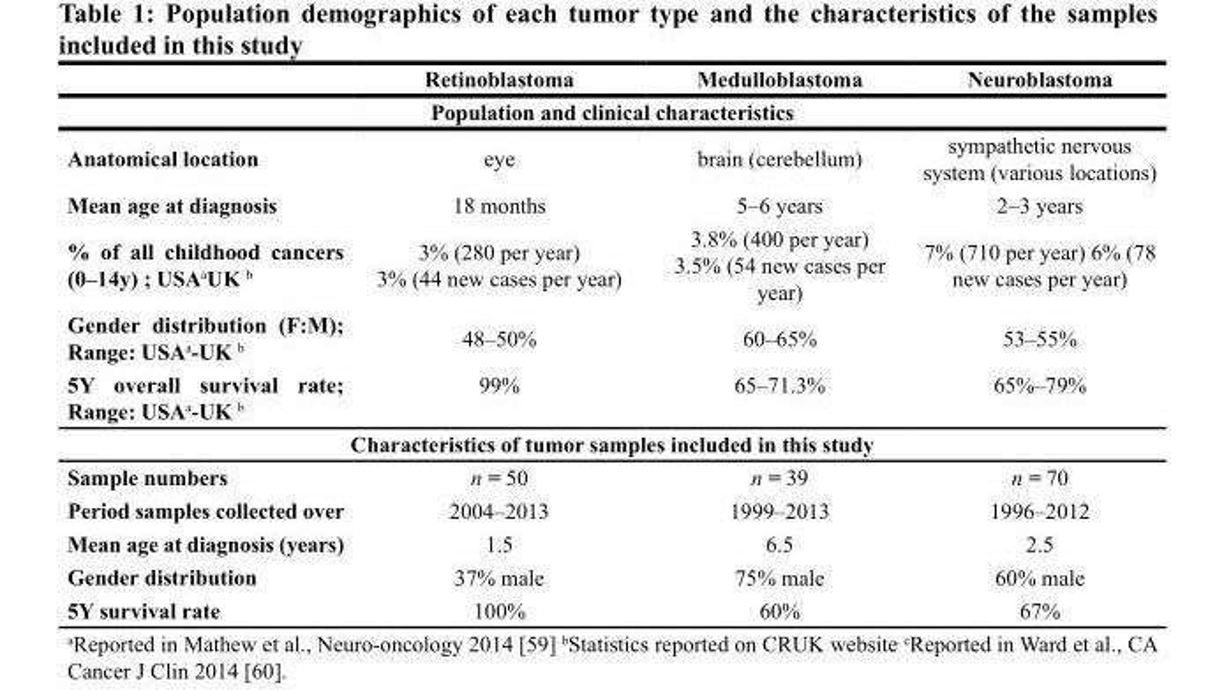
<table><thead><tr><td></td><td>Retinoblastoma</td><td>Medulloblastoma</td><td>Neuroblastoma</td></tr><tr><td colspan="4">Population and clinical characteristics</td></tr></thead><tbody><tr><td>Anatomical location</td><td>eye</td><td>brain (cerebellum)</td><td>sympathetic nervous system (various locations)</td></tr><tr><td>Mean age at diagnosis</td><td>18 months</td><td>5–6 years</td><td>2–3 years</td></tr><tr><td>% of all childhood cancers (0–14y) ; USA<sup>a</sup>UK <sup>b</sup></td><td>3% (280 per year) 3% (44 new cases per year)</td><td>3.8% (400 per year) 3.5% (54 new cases per year)</td><td>7% (710 per year) 6% (78 new cases per year)</td></tr><tr><td>Gender distribution (F:M); Range: USA<sup>a</sup>-UK <sup>b</sup></td><td>48–50%</td><td>60–65%</td><td>53–55%</td></tr><tr><td>5Y overall survival rate; Range: USA<sup>a</sup>-UK <sup>b</sup></td><td>99%</td><td>65–71.3%</td><td>65%–79%</td></tr><tr><td colspan="4">Characteristics of tumor samples included in this study</td></tr><tr><td>Sample numbers</td><td>n = 50</td><td>n = 39</td><td>n = 70</td></tr><tr><td>Period samples collected over</td><td>2004–2013</td><td>1999–2013</td><td>1996–2012</td></tr><tr><td>Mean age at diagnosis (years)</td><td>1.5</td><td>6.5</td><td>2.5</td></tr><tr><td>Gender distribution</td><td>37% male</td><td>75% male</td><td>60% male</td></tr><tr><td>5Y survival rate</td><td>100%</td><td>60%</td><td>67%</td></tr></tbody></table>